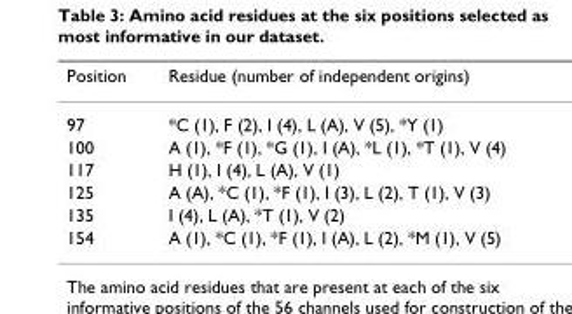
<table><thead><tr><td>Position</td><td>Residue (number of independent origins)</td></tr></thead><tbody><tr><td>97</td><td>*C (1), F (2), I (4), L (A), V (5), *Y (1)</td></tr><tr><td>100</td><td>A (1), *F (1), *G (1), I (A), *L (1), *T (1), V (4)</td></tr><tr><td>117</td><td>H (1), I (4), L (A), V (1)</td></tr><tr><td>125</td><td>A (A), *C (1), *F (1), I (3), L (2), T (1), V (3)</td></tr><tr><td>135</td><td>I (4), L (A), *T (1), V (2)</td></tr><tr><td>154</td><td>A (1), *C (1), *F (1), I (A), L (2), *M (1), V (5)</td></tr></tbody></table>